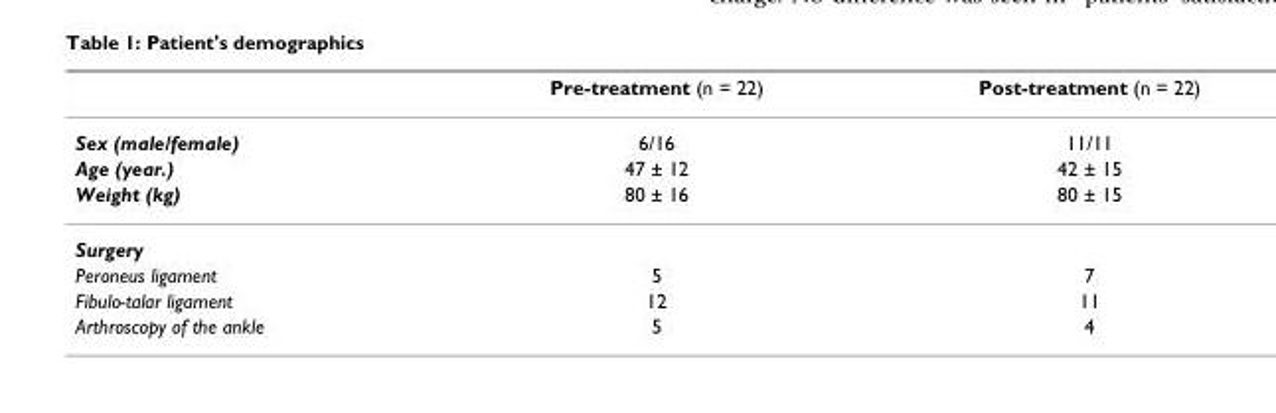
<table><thead><tr><td></td><td>Pre-treatment (n = 22)</td><td>Post-treatment (n = 22)</td></tr></thead><tbody><tr><td>Sex (male/female)</td><td>6/16</td><td>11/11</td></tr><tr><td>Age (year.)</td><td>47 ± 12</td><td>42 ± 15</td></tr><tr><td>Weight (kg)</td><td>80 ± 16</td><td>80 ± 15</td></tr><tr><td colspan="3">Surgery</td></tr><tr><td>Peroneus ligament</td><td>5</td><td>7</td></tr><tr><td>Fibulo-talar ligament</td><td>12</td><td>11</td></tr><tr><td>Arthroscopy of the ankle</td><td>5</td><td>4</td></tr></tbody></table>